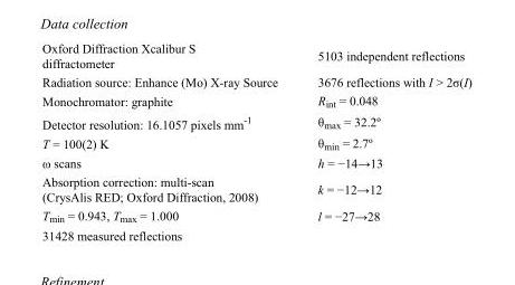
<table><tbody><tr><td>Oxford Diffraction Xcalibur S diffractometer</td><td>5103 independent reflections</td></tr><tr><td>Radiation source: Enhance (Mo) X-ray Source</td><td>3676 reflections with I &gt; 2σ(I)</td></tr><tr><td>Monochromator: graphite</td><td>R<sub>int</sub> = 0.048</td></tr><tr><td>Detector resolution: 16.1057 pixels mm<sup>-1</sup></td><td>θ<sub>max</sub> = 32.2º</td></tr><tr><td>T = 100(2) K</td><td>θ<sub>min</sub> = 2.7º</td></tr><tr><td>ω scans</td><td>h = −14→13</td></tr><tr><td>Absorption correction: multi-scan (CrysAlis RED; Oxford Diffraction, 2008)</td><td>k = −12→12</td></tr><tr><td>T<sub>min</sub> = 0.943, T<sub>max</sub> = 1.000</td><td>l = −27→28</td></tr><tr><td>31428 measured reflections</td><td></td></tr></tbody></table>